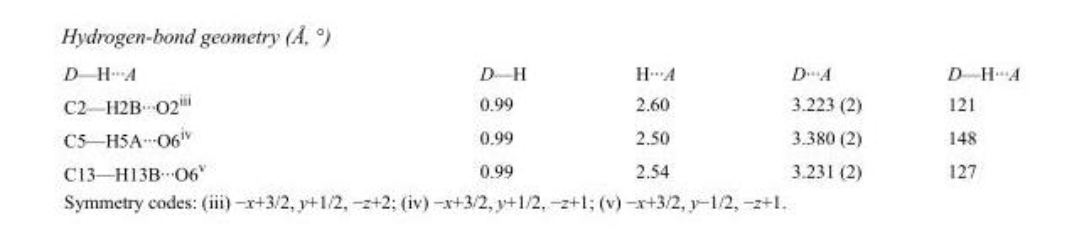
<table><tbody><tr><td>D—H···A</td><td>D—H</td><td>H···A</td><td>D···A</td><td>D—H···A</td></tr><tr><td>C2—H2B···O2<sup>iii</sup></td><td>0.99</td><td>2.60</td><td>3.223 (2)</td><td>121</td></tr><tr><td>C5—H5A···O6<sup>iv</sup></td><td>0.99</td><td>2.50</td><td>3.380 (2)</td><td>148</td></tr><tr><td>C13—H13B···O6<sup>v</sup></td><td>0.99</td><td>2.54</td><td>3.231 (2)</td><td>127</td></tr></tbody></table>